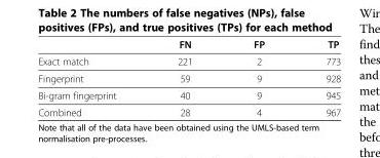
<table><thead><tr><td></td><td>FN</td><td>FP</td><td>TP</td></tr></thead><tbody><tr><td>Exact match</td><td>221</td><td>2</td><td>773</td></tr><tr><td>Fingerprint</td><td>59</td><td>9</td><td>928</td></tr><tr><td>Bi-gram fingerprint</td><td>40</td><td>9</td><td>945</td></tr><tr><td>Combined</td><td>28</td><td>4</td><td>967</td></tr></tbody></table>